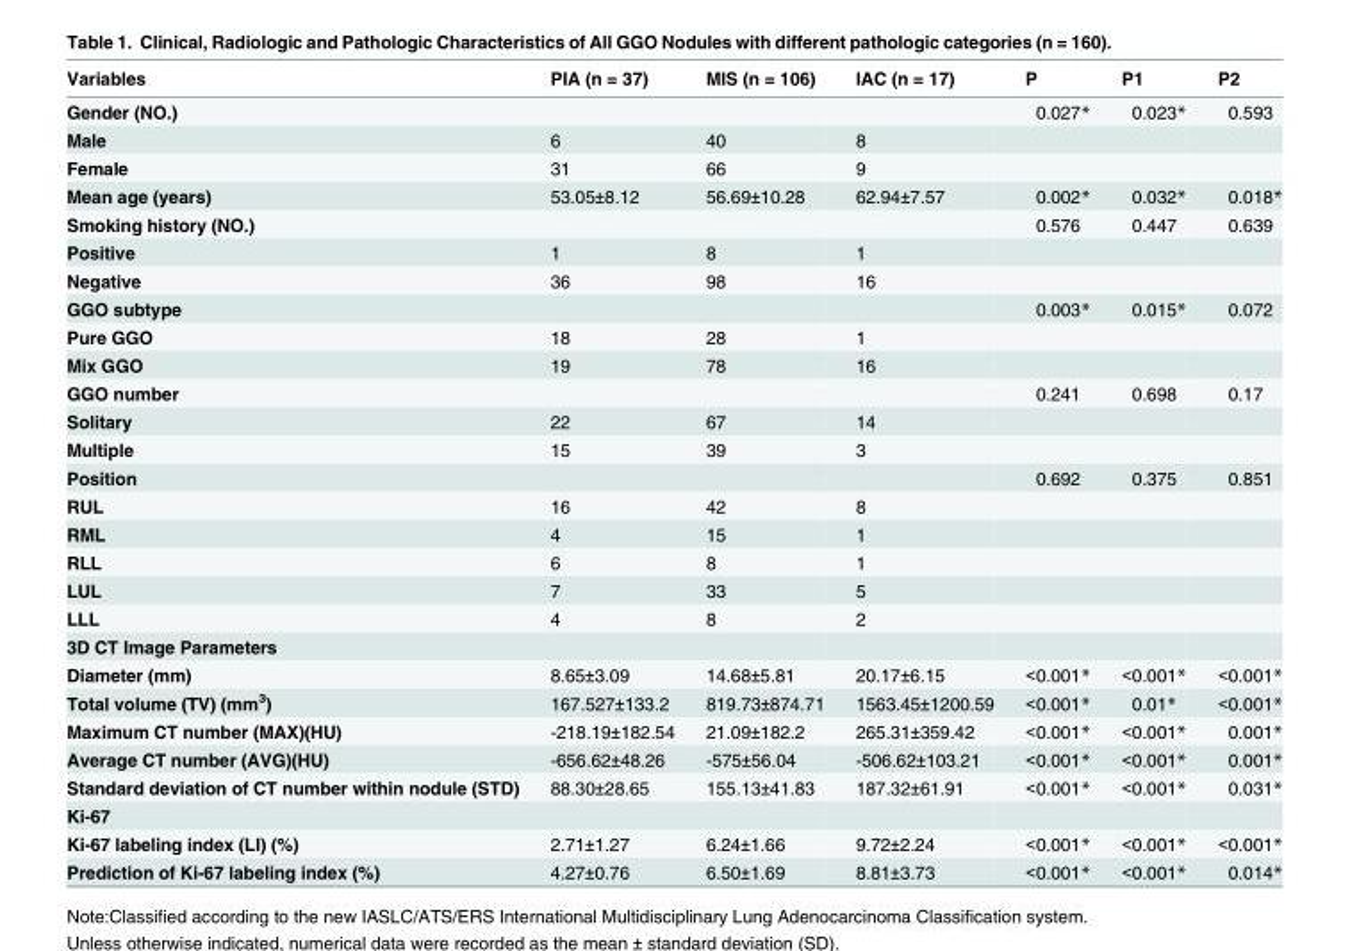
<table><thead><tr><td>Variables</td><td>PIA (n = 37)</td><td>MIS (n = 106)</td><td>IAC (n = 17)</td><td>P</td><td>P1</td><td>P2</td></tr></thead><tbody><tr><td>Gender (NO.)</td><td></td><td></td><td></td><td>0.027*</td><td>0.023*</td><td>0.593</td></tr><tr><td>Male</td><td>6</td><td>40</td><td>8</td><td></td><td></td><td></td></tr><tr><td>Female</td><td>31</td><td>66</td><td>9</td><td></td><td></td><td></td></tr><tr><td>Mean age (years)</td><td>53.05±8.12</td><td>56.69±10.28</td><td>62.94±7.57</td><td>0.002*</td><td>0.032*</td><td>0.018*</td></tr><tr><td>Smoking history (NO.)</td><td></td><td></td><td></td><td>0.576</td><td>0.447</td><td>0.639</td></tr><tr><td>Positive</td><td>1</td><td>8</td><td>1</td><td></td><td></td><td></td></tr><tr><td>Negative</td><td>36</td><td>98</td><td>16</td><td></td><td></td><td></td></tr><tr><td>GGO subtype</td><td></td><td></td><td></td><td>0.003*</td><td>0.015*</td><td>0.072</td></tr><tr><td>Pure GGO</td><td>18</td><td>28</td><td>1</td><td></td><td></td><td></td></tr><tr><td>Mix GGO</td><td>19</td><td>78</td><td>16</td><td></td><td></td><td></td></tr><tr><td>GGO number</td><td></td><td></td><td></td><td>0.241</td><td>0.698</td><td>0.17</td></tr><tr><td>Solitary</td><td>22</td><td>67</td><td>14</td><td></td><td></td><td></td></tr><tr><td>Multiple</td><td>15</td><td>39</td><td>3</td><td></td><td></td><td></td></tr><tr><td>Position</td><td></td><td></td><td></td><td>0.692</td><td>0.375</td><td>0.851</td></tr><tr><td>RUL</td><td>16</td><td>42</td><td>8</td><td></td><td></td><td></td></tr><tr><td>RML</td><td>4</td><td>15</td><td>1</td><td></td><td></td><td></td></tr><tr><td>RLL</td><td>6</td><td>8</td><td>1</td><td></td><td></td><td></td></tr><tr><td>LUL</td><td>7</td><td>33</td><td>5</td><td></td><td></td><td></td></tr><tr><td>LLL</td><td>4</td><td>8</td><td>2</td><td></td><td></td><td></td></tr><tr><td colspan="7">3D CT Image Parameters</td></tr><tr><td>Diameter (mm)</td><td>8.65±3.09</td><td>14.68±5.81</td><td>20.17±6.15</td><td>&lt;0.001*</td><td>&lt;0.001*</td><td>&lt;0.001*</td></tr><tr><td>Total volume (TV) (mm3)</td><td>167.527±133.2</td><td>819.73±874.71</td><td>1563.45±1200.59</td><td>&lt;0.001*</td><td>0.01*</td><td>&lt;0.001*</td></tr><tr><td>Maximum CT number (MAX)(HU)</td><td>-218.19±182.54</td><td>21.09±182.2</td><td>265.31±359.42</td><td>&lt;0.001*</td><td>&lt;0.001*</td><td>0.001*</td></tr><tr><td>Average CT number (AVG)(HU)</td><td>-656.62±48.26</td><td>-575±56.04</td><td>-506.62±103.21</td><td>&lt;0.001*</td><td>&lt;0.001*</td><td>0.001*</td></tr><tr><td>Standard deviation of CT number within nodule (STD)</td><td>88.30±28.65</td><td>155.13±41.83</td><td>187.32±61.91</td><td>&lt;0.001*</td><td>&lt;0.001*</td><td>0.031*</td></tr><tr><td colspan="7">Ki-67</td></tr><tr><td>Ki-67 labeling index (LI) (%)</td><td>2.71±1.27</td><td>6.24±1.66</td><td>9.72±2.24</td><td>&lt;0.001*</td><td>&lt;0.001*</td><td>&lt;0.001*</td></tr><tr><td>Prediction of Ki-67 labeling index (%)</td><td>4.27±0.76</td><td>6.50±1.69</td><td>8.81±3.73</td><td>&lt;0.001*</td><td>&lt;0.001*</td><td>0.014*</td></tr></tbody></table>